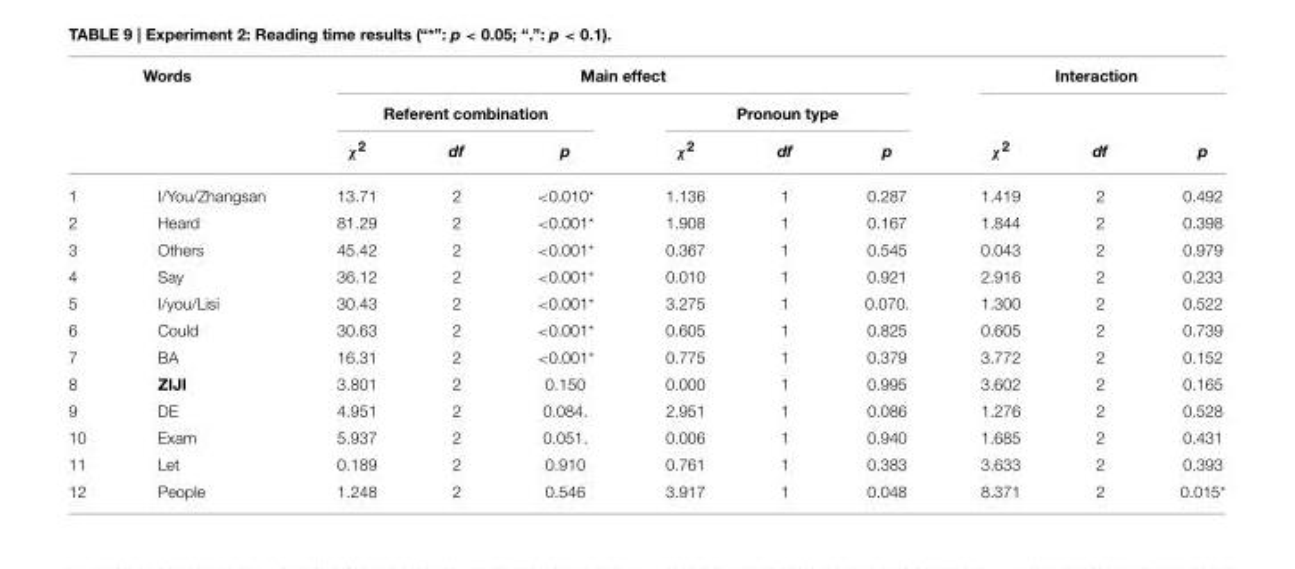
<table><thead><tr><td colspan="2">Words</td><td colspan="6">Main effect</td><td colspan="3">Interaction</td></tr><tr><td rowspan="2"></td><td rowspan="2"></td><td colspan="3">Referent combination</td><td colspan="3">Pronoun type</td><td rowspan="2">χ<sup>2</sup></td><td rowspan="2">df</td><td rowspan="2">p</td></tr><tr><td>χ<sup>2</sup></td><td>df</td><td>p</td><td>χ<sup>2</sup></td><td>df</td><td>p</td></tr></thead><tbody><tr><td>1</td><td>I/You/Zhangsan</td><td>13.71</td><td>2</td><td>&lt;0.010*</td><td>1.136</td><td>1</td><td>0.287</td><td>1.419</td><td>2</td><td>0.492</td></tr><tr><td>2</td><td>Heard</td><td>81.29</td><td>2</td><td>&lt;0.001*</td><td>1.908</td><td>1</td><td>0.167</td><td>1.844</td><td>2</td><td>0.398</td></tr><tr><td>3</td><td>Others</td><td>45.42</td><td>2</td><td>&lt;0.001*</td><td>0.367</td><td>1</td><td>0.545</td><td>0.043</td><td>2</td><td>0.979</td></tr><tr><td>4</td><td>Say</td><td>36.12</td><td>2</td><td>&lt;0.001*</td><td>0.010</td><td>1</td><td>0.921</td><td>2.916</td><td>2</td><td>0.233</td></tr><tr><td>5</td><td>I/you/Lisi</td><td>30.43</td><td>2</td><td>&lt;0.001*</td><td>3.275</td><td>1</td><td>0.070.</td><td>1.300</td><td>2</td><td>0.522</td></tr><tr><td>6</td><td>Could</td><td>30.63</td><td>2</td><td>&lt;0.001*</td><td>0.605</td><td>1</td><td>0.825</td><td>0.605</td><td>2</td><td>0.739</td></tr><tr><td>7</td><td>BA</td><td>16.31</td><td>2</td><td>&lt;0.001*</td><td>0.775</td><td>1</td><td>0.379</td><td>3.772</td><td>2</td><td>0.152</td></tr><tr><td>8</td><td>ZIJI</td><td>3.801</td><td>2</td><td>0.150</td><td>0.000</td><td>1</td><td>0.995</td><td>3.602</td><td>2</td><td>0.165</td></tr><tr><td>9</td><td>DE</td><td>4.951</td><td>2</td><td>0.084.</td><td>2.951</td><td>1</td><td>0.086</td><td>1.276</td><td>2</td><td>0.528</td></tr><tr><td>10</td><td>Exam</td><td>5.937</td><td>2</td><td>0.051.</td><td>0.006</td><td>1</td><td>0.940</td><td>1.685</td><td>2</td><td>0.431</td></tr><tr><td>11</td><td>Let</td><td>0.189</td><td>2</td><td>0.910</td><td>0.761</td><td>1</td><td>0.383</td><td>3.633</td><td>2</td><td>0.393</td></tr><tr><td>12</td><td>People</td><td>1.248</td><td>2</td><td>0.546</td><td>3.917</td><td>1</td><td>0.048</td><td>8.371</td><td>2</td><td>0.015*</td></tr></tbody></table>